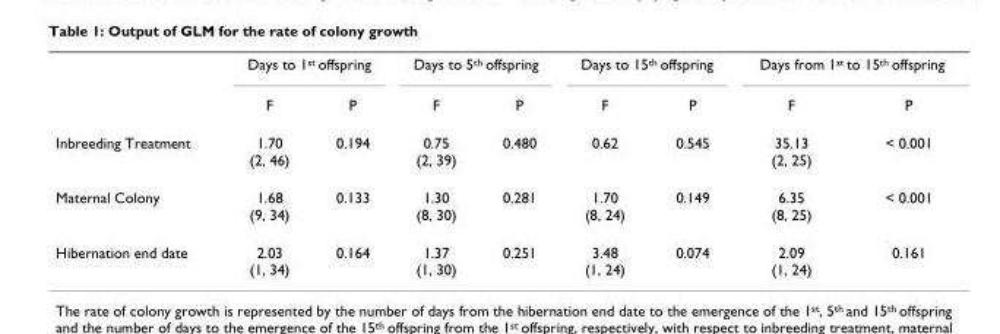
<table><thead><tr><td rowspan="2"></td><td colspan="2">Days to 1<sup>st</sup> offspring</td><td colspan="2">Days to 5<sup>th</sup> offspring</td><td colspan="2">Days to 15<sup>th</sup> offspring</td><td colspan="2">Days from 1<sup>st</sup> to 15<sup>th</sup> offspring</td></tr><tr><td>F</td><td>P</td><td>F</td><td>P</td><td>F</td><td>P</td><td>F</td><td>P</td></tr></thead><tbody><tr><td>Inbreeding Treatment</td><td>1.70 (2, 46)</td><td>0.194</td><td>0.75 (2, 39)</td><td>0.480</td><td>0.62</td><td>0.545</td><td>35.13 (2, 25)</td><td>&lt; 0.001</td></tr><tr><td>Maternal Colony</td><td>1.68 (9, 34)</td><td>0.133</td><td>1.30 (8, 30)</td><td>0.281</td><td>1.70 (8, 24)</td><td>0.149</td><td>6.35 (8, 25)</td><td>&lt; 0.001</td></tr><tr><td>Hibernation end date</td><td>2.03 (1, 34)</td><td>0.164</td><td>1.37 (1, 30)</td><td>0.251</td><td>3.48 (1, 24)</td><td>0.074</td><td>2.09 (1, 24)</td><td>0.161</td></tr></tbody></table>